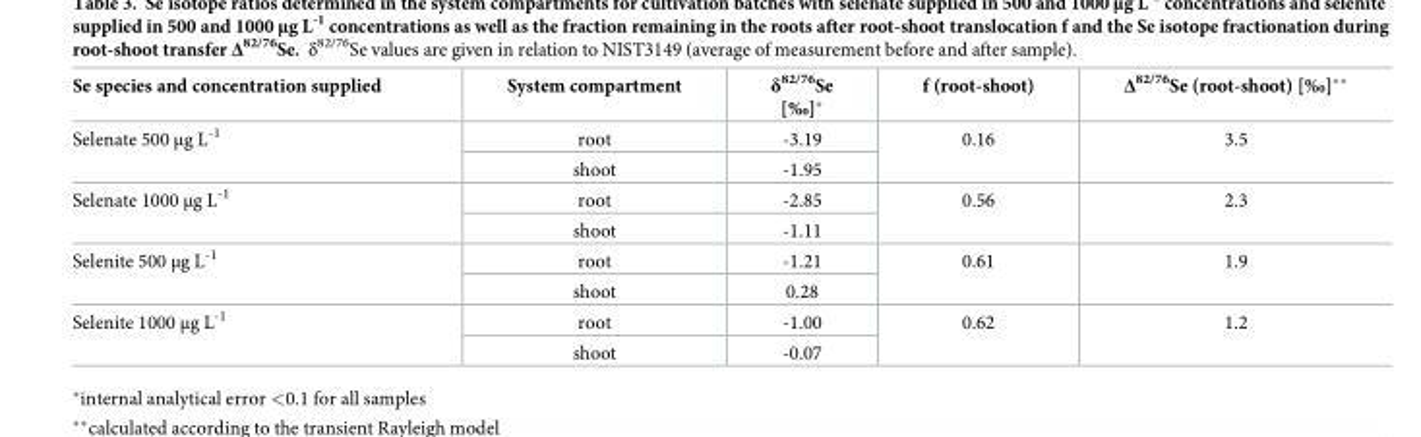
<table><thead><tr><td>Se species and concentration supplied</td><td>System compartment</td><td>δ<sup>82/76</sup>Se [‰]*</td><td>f (root-shoot)</td><td>Δ<sup>82/76</sup>Se (root-shoot) [‰]**</td></tr></thead><tbody><tr><td rowspan="2">Selenate 500 μg L<sup>-1</sup></td><td>root</td><td>-3.19</td><td rowspan="2">0.16</td><td rowspan="2">3.5</td></tr><tr><td>shoot</td><td>-1.95</td></tr><tr><td rowspan="2">Selenate 1000 μg L<sup>-1</sup></td><td>root</td><td>-2.85</td><td rowspan="2">0.56</td><td rowspan="2">2.3</td></tr><tr><td>shoot</td><td>-1.11</td></tr><tr><td rowspan="2">Selenite 500 μg L<sup>-1</sup></td><td>root</td><td>-1.21</td><td rowspan="2">0.61</td><td rowspan="2">1.9</td></tr><tr><td>shoot</td><td>0.28</td></tr><tr><td rowspan="2">Selenite 1000 μg L<sup>-1</sup></td><td>root</td><td>-1.00</td><td rowspan="2">0.62</td><td rowspan="2">1.2</td></tr><tr><td>shoot</td><td>-0.07</td></tr></tbody></table>